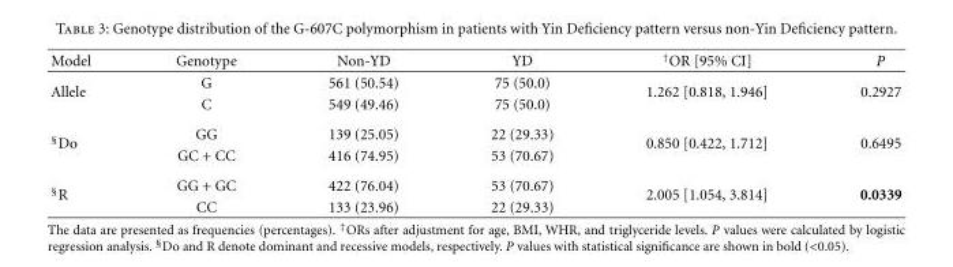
<table><thead><tr><td>Model</td><td>Genotype</td><td>Non-YD</td><td>YD</td><td><sup>†</sup>OR [95% CI]</td><td>P</td></tr></thead><tbody><tr><td rowspan="2">Allele</td><td>G</td><td>561 (50.54)</td><td>75 (50.0)</td><td rowspan="2">1.262 [0.818, 1.946]</td><td rowspan="2">0.2927</td></tr><tr><td>C</td><td>549 (49.46)</td><td>75 (50.0)</td></tr><tr><td rowspan="2"><sup>§</sup>Do</td><td>GG</td><td>139 (25.05)</td><td>22 (29.33)</td><td rowspan="2">0.850 [0.422, 1.712]</td><td rowspan="2">0.6495</td></tr><tr><td>GC + CC</td><td>416 (74.95)</td><td>53 (70.67)</td></tr><tr><td rowspan="2"><sup>§</sup>R</td><td>GG + GC</td><td>422 (76.04)</td><td>53 (70.67)</td><td rowspan="2">2.005 [1.054, 3.814]</td><td rowspan="2">0.0339</td></tr><tr><td>CC</td><td>133 (23.96)</td><td>22 (29.33)</td></tr></tbody></table>